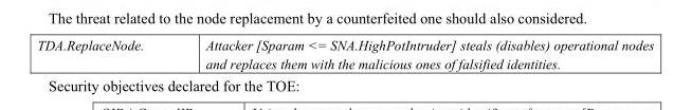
<table><tbody><tr><td>TDA.ReplaceNode.</td><td>Attacker [Sparam &lt;= SNA.HighPotIntruder] steals (disables) operational nodes and replaces them with the malicious ones of falsified identities.</td></tr></tbody></table>